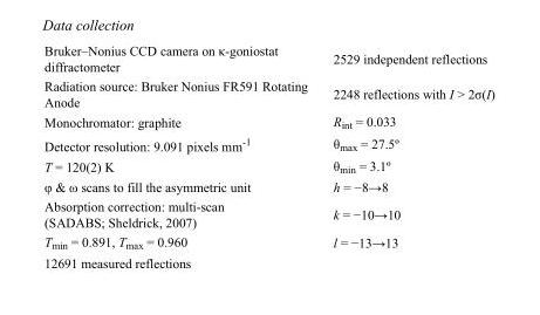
<table><tbody><tr><td>Bruker–Nonius CCD camera on κ-goniostat diffractometer</td><td>2529 independent reflections</td></tr><tr><td>Radiation source: Bruker Nonius FR591 Rotating Anode</td><td>2248 reflections with I &gt; 2σ(I)</td></tr><tr><td>Monochromator: graphite</td><td>R<sub>int</sub> = 0.033</td></tr><tr><td>Detector resolution: 9.091 pixels mm<sup>-1</sup></td><td>θ<sub>max</sub> = 27.5º</td></tr><tr><td>T = 120(2) K</td><td>θ<sub>min</sub> = 3.1º</td></tr><tr><td>φ &amp; ω scans to fill the asymmetric unit</td><td>h = −8→8</td></tr><tr><td>Absorption correction: multi-scan (SADABS; Sheldrick, 2007)</td><td>k = −10→10</td></tr><tr><td>T<sub>min</sub> = 0.891, T<sub>max</sub> = 0.960</td><td>l = −13→13</td></tr><tr><td>12691 measured reflections</td><td></td></tr></tbody></table>